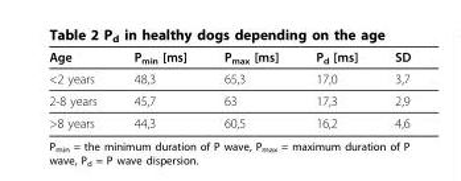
<table><thead><tr><td>Age</td><td>P<sub>min</sub> [ms]</td><td>P<sub>max</sub> [ms]</td><td>P<sub>d</sub> [ms]</td><td>SD</td></tr></thead><tbody><tr><td>&lt;2 years</td><td>48,3</td><td>65,3</td><td>17,0</td><td>3,7</td></tr><tr><td>2-8 years</td><td>45,7</td><td>63</td><td>17,3</td><td>2,9</td></tr><tr><td>&gt;8 years</td><td>44,3</td><td>60,5</td><td>16,2</td><td>4,6</td></tr></tbody></table>